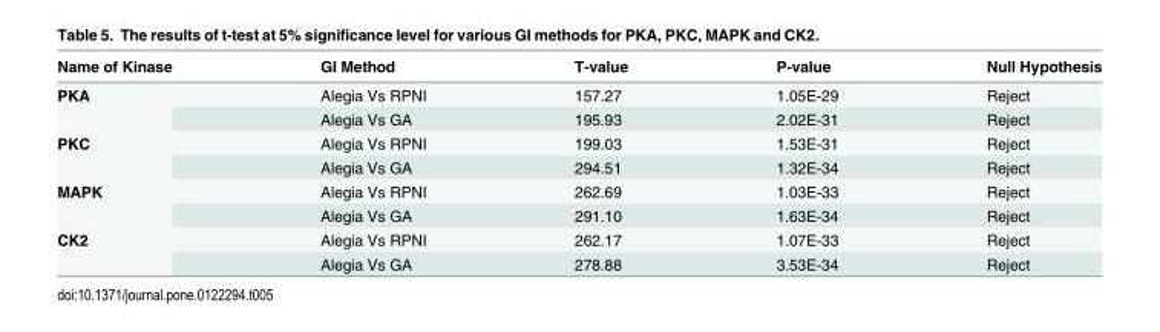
<table><thead><tr><td>Name of Kinase</td><td>GI Method</td><td>T-value</td><td>P-value</td><td>Null Hypothesis</td></tr></thead><tbody><tr><td rowspan="2">PKA</td><td>Alegia Vs RPNI</td><td>157.27</td><td>1.05E-29</td><td>Reject</td></tr><tr><td>Alegia Vs GA</td><td>195.93</td><td>2.02E-31</td><td>Reject</td></tr><tr><td rowspan="2">PKC</td><td>Alegia Vs RPNI</td><td>199.03</td><td>1.53E-31</td><td>Reject</td></tr><tr><td>Alegia Vs GA</td><td>294.51</td><td>1.32E-34</td><td>Reject</td></tr><tr><td rowspan="2">MAPK</td><td>Alegia Vs RPNI</td><td>262.69</td><td>1.03E-33</td><td>Reject</td></tr><tr><td>Alegia Vs GA</td><td>291.10</td><td>1.63E-34</td><td>Reject</td></tr><tr><td rowspan="2">CK2</td><td>Alegia Vs RPNI</td><td>262.17</td><td>1.07E-33</td><td>Reject</td></tr><tr><td>Alegia Vs GA</td><td>278.88</td><td>3.53E-34</td><td>Reject</td></tr></tbody></table>